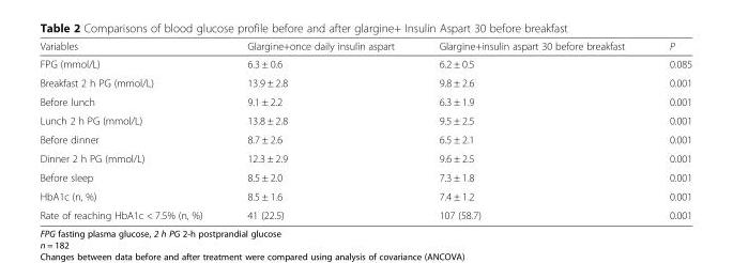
<table><thead><tr><td>Variables</td><td>Glargine+once daily insulin aspart</td><td>Glargine+insulin aspart 30 before breakfast</td><td>P</td></tr></thead><tbody><tr><td>FPG (mmol/L)</td><td>6.3 ± 0.6</td><td>6.2 ± 0.5</td><td>0.085</td></tr><tr><td>Breakfast 2 h PG (mmol/L)</td><td>13.9 ± 2.8</td><td>9.8 ± 2.6</td><td>0.001</td></tr><tr><td>Before lunch</td><td>9.1 ± 2.2</td><td>6.3 ± 1.9</td><td>0.001</td></tr><tr><td>Lunch 2 h PG (mmol/L)</td><td>13.8 ± 2.8</td><td>9.5 ± 2.5</td><td>0.001</td></tr><tr><td>Before dinner</td><td>8.7 ± 2.6</td><td>6.5 ± 2.1</td><td>0.001</td></tr><tr><td>Dinner 2 h PG (mmol/L)</td><td>12.3 ± 2.9</td><td>9.6 ± 2.5</td><td>0.001</td></tr><tr><td>Before sleep</td><td>8.5 ± 2.0</td><td>7.3 ± 1.8</td><td>0.001</td></tr><tr><td>HbA1c (n, %)</td><td>8.5 ± 1.6</td><td>7.4 ± 1.2</td><td>0.001</td></tr><tr><td>Rate of reaching HbA1c &lt; 7.5% (n, %)</td><td>41 (22.5)</td><td>107 (58.7)</td><td>0.001</td></tr></tbody></table>